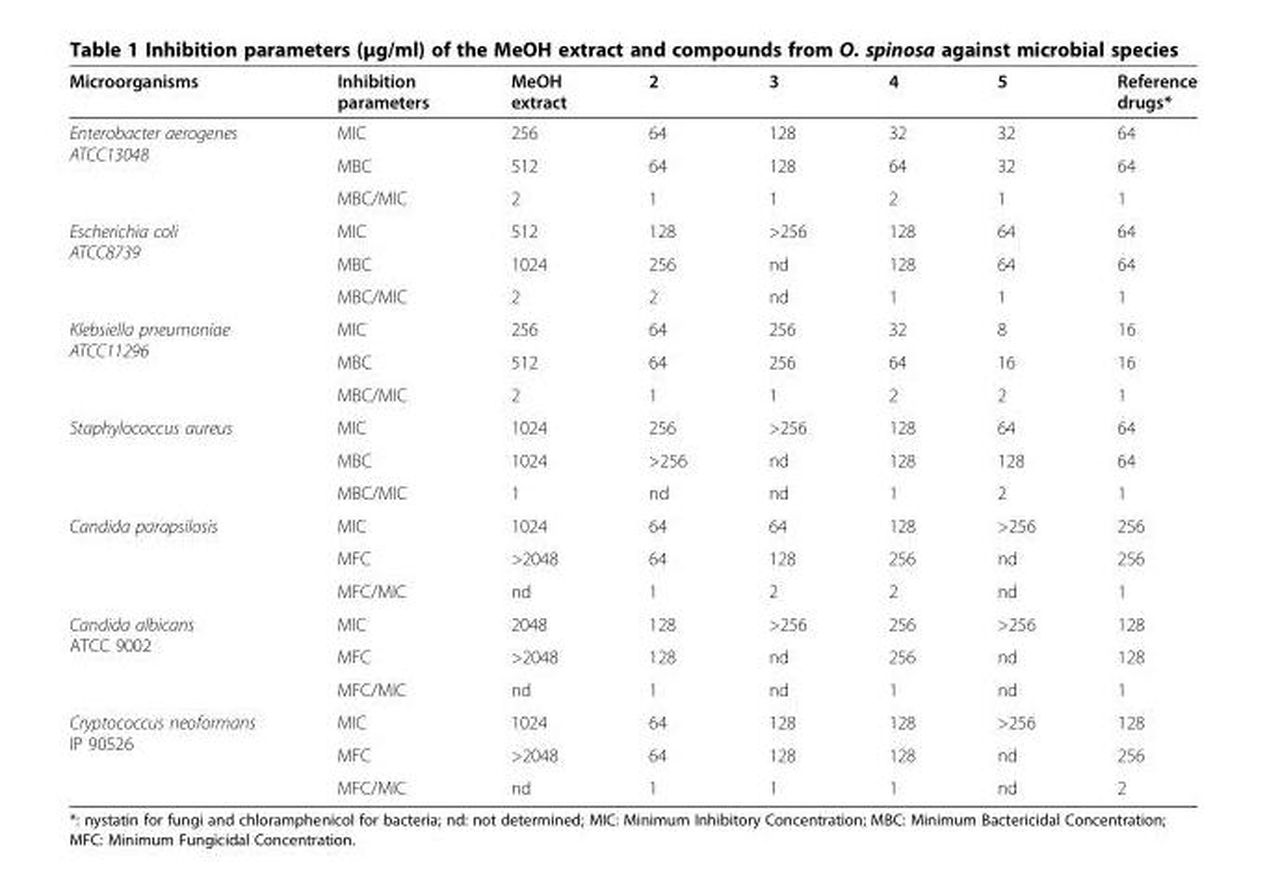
<table><thead><tr><td>Microorganisms</td><td>Inhibition parameters</td><td>MeOH extract</td><td>2</td><td>3</td><td>4</td><td>5</td><td>Reference drugs*</td></tr></thead><tbody><tr><td rowspan="3">Enterobacter aerogenes ATCC13048</td><td>MIC</td><td>256</td><td>64</td><td>128</td><td>32</td><td>32</td><td>64</td></tr><tr><td>MBC</td><td>512</td><td>64</td><td>128</td><td>64</td><td>32</td><td>64</td></tr><tr><td>MBC/MIC</td><td>2</td><td>1</td><td>1</td><td>2</td><td>1</td><td>1</td></tr><tr><td rowspan="3">Escherichia coli ATCC8739</td><td>MIC</td><td>512</td><td>128</td><td>&gt;256</td><td>128</td><td>64</td><td>64</td></tr><tr><td>MBC</td><td>1024</td><td>256</td><td>nd</td><td>128</td><td>64</td><td>64</td></tr><tr><td>MBC/MIC</td><td>2</td><td>2</td><td>nd</td><td>1</td><td>1</td><td>1</td></tr><tr><td rowspan="3">Klebsiella pneumoniae ATCC11296</td><td>MIC</td><td>256</td><td>64</td><td>256</td><td>32</td><td>8</td><td>16</td></tr><tr><td>MBC</td><td>512</td><td>64</td><td>256</td><td>64</td><td>16</td><td>16</td></tr><tr><td>MBC/MIC</td><td>2</td><td>1</td><td>1</td><td>2</td><td>2</td><td>1</td></tr><tr><td rowspan="3">Staphylococcus aureus</td><td>MIC</td><td>1024</td><td>256</td><td>&gt;256</td><td>128</td><td>64</td><td>64</td></tr><tr><td>MBC</td><td>1024</td><td>&gt;256</td><td>nd</td><td>128</td><td>128</td><td>64</td></tr><tr><td>MBC/MIC</td><td>1</td><td>nd</td><td>nd</td><td>1</td><td>2</td><td>1</td></tr><tr><td rowspan="3">Candida parapsilosis</td><td>MIC</td><td>1024</td><td>64</td><td>64</td><td>128</td><td>&gt;256</td><td>256</td></tr><tr><td>MFC</td><td>&gt;2048</td><td>64</td><td>128</td><td>256</td><td>nd</td><td>256</td></tr><tr><td>MFC/MIC</td><td>nd</td><td>1</td><td>2</td><td>2</td><td>nd</td><td>1</td></tr><tr><td rowspan="3">Candida albicans ATCC 9002</td><td>MIC</td><td>2048</td><td>128</td><td>&gt;256</td><td>256</td><td>&gt;256</td><td>128</td></tr><tr><td>MFC</td><td>&gt;2048</td><td>128</td><td>nd</td><td>256</td><td>nd</td><td>128</td></tr><tr><td>MFC/MIC</td><td>nd</td><td>1</td><td>nd</td><td>1</td><td>nd</td><td>1</td></tr><tr><td rowspan="3">Cryptococcus neoformans IP 90526</td><td>MIC</td><td>1024</td><td>64</td><td>128</td><td>128</td><td>&gt;256</td><td>128</td></tr><tr><td>MFC</td><td>&gt;2048</td><td>64</td><td>128</td><td>128</td><td>nd</td><td>256</td></tr><tr><td>MFC/MIC</td><td>nd</td><td>1</td><td>1</td><td>1</td><td>nd</td><td>2</td></tr></tbody></table>